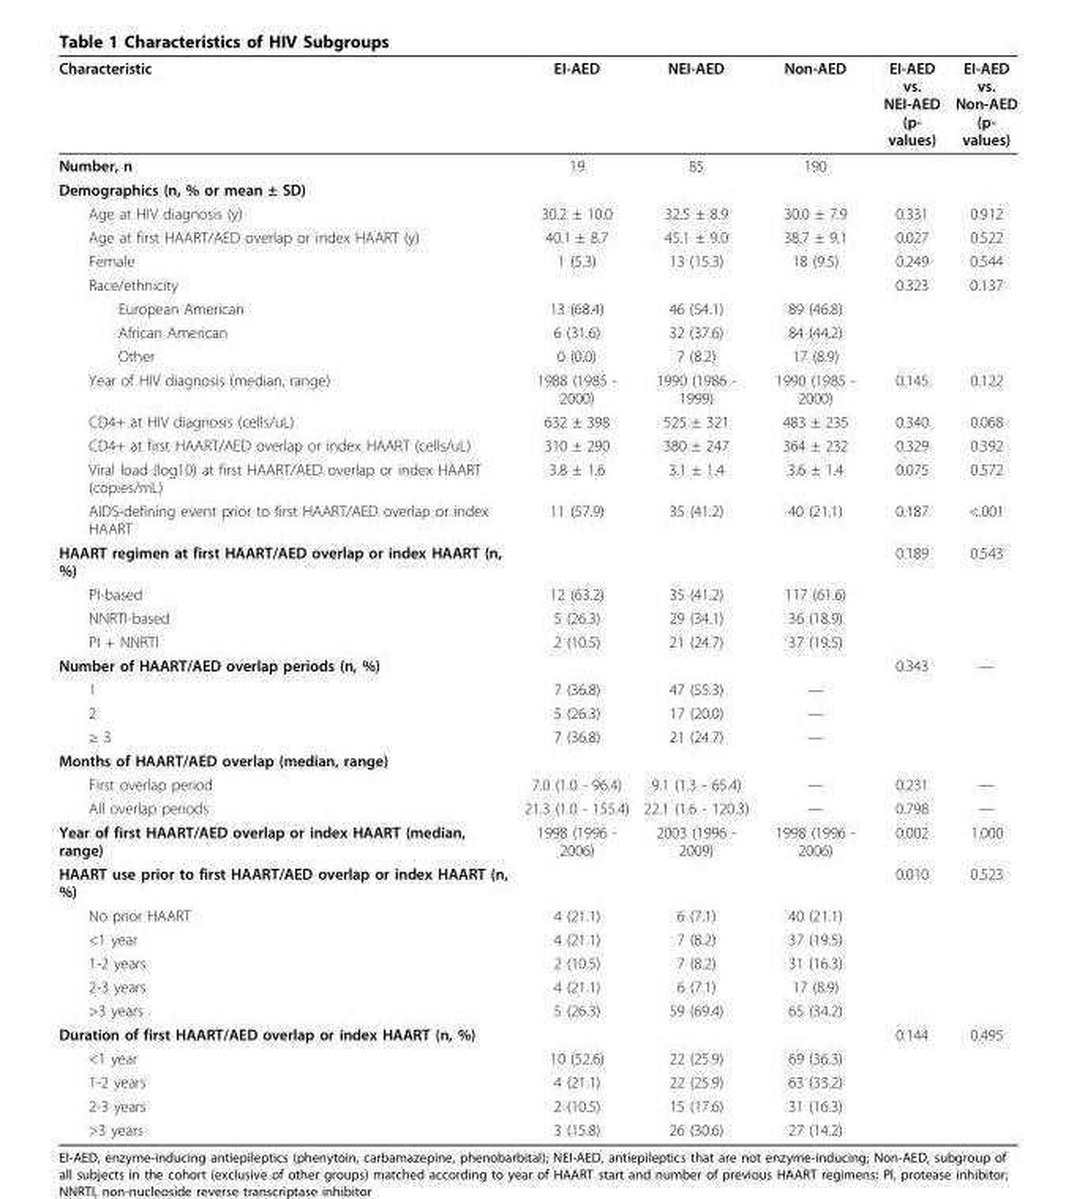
<table><thead><tr><td>Characteristic</td><td>EI-AED</td><td>NEI-AED</td><td>Non-AED</td><td>EI-AED vs. NEI-AED (p- values)</td><td>EI-AED vs. Non-AED (p- values)</td></tr></thead><tbody><tr><td>Number, n</td><td>19</td><td>85</td><td>190</td><td></td><td></td></tr><tr><td colspan="6">Demographics (n, % or mean ± SD)</td></tr><tr><td>Age at HIV diagnosis (y)</td><td>30.2 ± 10.0</td><td>32.5 ± 8.9</td><td>30.0 ± 7.9</td><td>0.331</td><td>0.912</td></tr><tr><td>Age at first HAART/AED overlap or index HAART (y)</td><td>40.1 ± 8.7</td><td>45.1 ± 9.0</td><td>38.7 ± 9.1</td><td>0.027</td><td>0.522</td></tr><tr><td>Female</td><td>1 (5.3)</td><td>13 (15.3)</td><td>18 (9.5)</td><td>0.249</td><td>0.544</td></tr><tr><td>Race/ethnicity</td><td></td><td></td><td></td><td>0.323</td><td>0.137</td></tr><tr><td>European American</td><td>13 (68.4)</td><td>46 (54.1)</td><td>89 (46.8)</td><td></td><td></td></tr><tr><td>African American</td><td>6 (31.6)</td><td>32 (37.6)</td><td>84 (44.2)</td><td></td><td></td></tr><tr><td>Other</td><td>0 (0.0)</td><td>7 (8.2)</td><td>17 (8.9)</td><td></td><td></td></tr><tr><td>Year of HIV diagnosis (median, range)</td><td>1988 (1985 - 2000)</td><td>1990 (1986 - 1999)</td><td>1990 (1985 - 2000)</td><td>0.145</td><td>0.122</td></tr><tr><td>CD4+ at HIV diagnosis (cells/uL)</td><td>632 ± 398</td><td>525 ± 321</td><td>483 ± 235</td><td>0.340</td><td>0.068</td></tr><tr><td>CD4+ at first HAART/AED overlap or index HAART (cells/uL)</td><td>310 ± 290</td><td>380 ± 247</td><td>364 ± 232</td><td>0.329</td><td>0.392</td></tr><tr><td>Viral load (log10) at first HAART/AED overlap or index HAART (copies/mL)</td><td>3.8 ± 1.6</td><td>3.1 ± 1.4</td><td>3.6 ± 1.4</td><td>0.075</td><td>0.572</td></tr><tr><td>AIDS-defining event prior to first HAART/AED overlap or index HAART</td><td>11 (57.9)</td><td>35 (41.2)</td><td>40 (21.1)</td><td>0.187</td><td>&lt;.001</td></tr><tr><td>HAART regimen at first HAART/AED overlap or index HAART (n, %)</td><td></td><td></td><td></td><td>0.189</td><td>0.543</td></tr><tr><td>PI-based</td><td>12 (63.2)</td><td>35 (41.2)</td><td>117 (61.6)</td><td></td><td></td></tr><tr><td>NNRTI-based</td><td>5 (26.3)</td><td>29 (34.1)</td><td>36 (18.9)</td><td></td><td></td></tr><tr><td>PI + NNRTI</td><td>2 (10.5)</td><td>21 (24.7)</td><td>37 (19.5)</td><td></td><td></td></tr><tr><td>Number of HAART/AED overlap periods (n, %)</td><td></td><td></td><td></td><td>0.343</td><td>—</td></tr><tr><td>1</td><td>7 (36.8)</td><td>47 (55.3)</td><td>—</td><td></td><td></td></tr><tr><td>2</td><td>5 (26.3)</td><td>17 (20.0)</td><td>—</td><td></td><td></td></tr><tr><td>≥ 3</td><td>7 (36.8)</td><td>21 (24.7)</td><td>—</td><td></td><td></td></tr><tr><td colspan="6">Months of HAART/AED overlap (median, range)</td></tr><tr><td>First overlap period</td><td>7.0 (1.0 - 96.4)</td><td>9.1 (1.3 - 65.4)</td><td>—</td><td>0.231</td><td>—</td></tr><tr><td>All overlap periods</td><td>21.3 (1.0 - 155.4)</td><td>22.1 (1.6 - 120.3)</td><td>—</td><td>0.798</td><td>—</td></tr><tr><td>Year of first HAART/AED overlap or index HAART (median, range)</td><td>1998 (1996 - 2006)</td><td>2003 (1996 - 2009)</td><td>1998 (1996 - 2006)</td><td>0.002</td><td>1.000</td></tr><tr><td>HAART use prior to first HAART/AED overlap or index HAART (n, %)</td><td></td><td></td><td></td><td>0.010</td><td>0.523</td></tr><tr><td>No prior HAART</td><td>4 (21.1)</td><td>6 (7.1)</td><td>40 (21.1)</td><td></td><td></td></tr><tr><td>&lt;1 year</td><td>4 (21.1)</td><td>7 (8.2)</td><td>37 (19.5)</td><td></td><td></td></tr><tr><td>1-2 years</td><td>2 (10.5)</td><td>7 (8.2)</td><td>31 (16.3)</td><td></td><td></td></tr><tr><td>2-3 years</td><td>4 (21.1)</td><td>6 (7.1)</td><td>17 (8.9)</td><td></td><td></td></tr><tr><td>&gt;3 years</td><td>5 (26.3)</td><td>59 (69.4)</td><td>65 (34.2)</td><td></td><td></td></tr><tr><td>Duration of first HAART/AED overlap or index HAART (n, %)</td><td></td><td></td><td></td><td>0.144</td><td>0.495</td></tr><tr><td>&lt;1 year</td><td>10 (52.6)</td><td>22 (25.9)</td><td>69 (36.3)</td><td></td><td></td></tr><tr><td>1-2 years</td><td>4 (21.1)</td><td>22 (25.9)</td><td>63 (33.2)</td><td></td><td></td></tr><tr><td>2-3 years</td><td>2 (10.5)</td><td>15 (17.6)</td><td>31 (16.3)</td><td></td><td></td></tr><tr><td>&gt;3 years</td><td>3 (15.8)</td><td>26 (30.6)</td><td>27 (14.2)</td><td></td><td></td></tr></tbody></table>